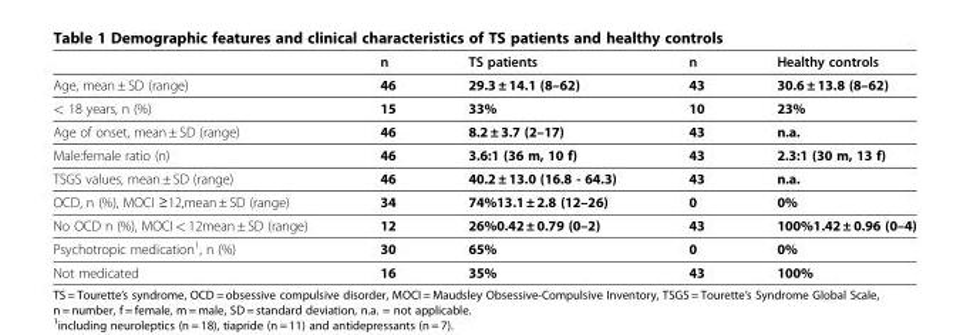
<table><thead><tr><td></td><td>n</td><td>TS patients</td><td>n</td><td>Healthy controls</td></tr></thead><tbody><tr><td>Age, mean ± SD (range)</td><td>46</td><td>29.3 ± 14.1 (8–62)</td><td>43</td><td>30.6 ± 13.8 (8–62)</td></tr><tr><td>&lt; 18 years, n (%)</td><td>15</td><td>33%</td><td>10</td><td>23%</td></tr><tr><td>Age of onset, mean ± SD (range)</td><td>46</td><td>8.2 ± 3.7 (2–17)</td><td>43</td><td>n.a.</td></tr><tr><td>Male:female ratio (n)</td><td>46</td><td>3.6:1 (36 m, 10 f)</td><td>43</td><td>2.3:1 (30 m, 13 f)</td></tr><tr><td>TSGS values, mean ± SD (range)</td><td>46</td><td>40.2 ± 13.0 (16.8 - 64.3)</td><td>43</td><td>n.a.</td></tr><tr><td>OCD, n (%), MOCI ≥12,mean ± SD (range)</td><td>34</td><td>74%13.1 ± 2.8 (12–26)</td><td>0</td><td>0%</td></tr><tr><td>No OCD n (%), MOCI &lt; 12mean ± SD (range)</td><td>12</td><td>26%0.42 ± 0.79 (0–2)</td><td>43</td><td>100%1.42 ± 0.96 (0–4)</td></tr><tr><td>Psychotropic medication<sup>1</sup>, n (%)</td><td>30</td><td>65%</td><td>0</td><td>0%</td></tr><tr><td>Not medicated</td><td>16</td><td>35%</td><td>43</td><td>100%</td></tr></tbody></table>